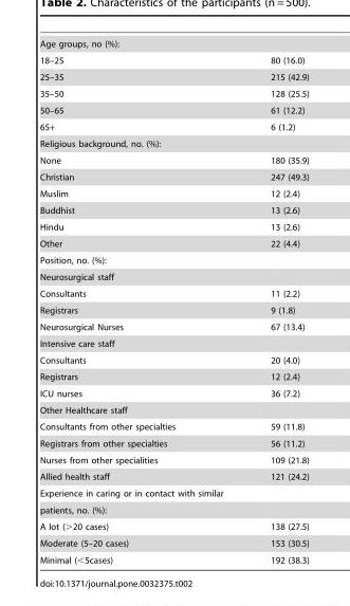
<table><tbody><tr><td colspan="2">Age groups, no (%):</td></tr><tr><td>18–25</td><td>80 (16.0)</td></tr><tr><td>25–35</td><td>215 (42.9)</td></tr><tr><td>35–50</td><td>128 (25.5)</td></tr><tr><td>50–65</td><td>61 (12.2)</td></tr><tr><td>65+</td><td>6 (1.2)</td></tr><tr><td colspan="2">Religious background, no. (%):</td></tr><tr><td>None</td><td>180 (35.9)</td></tr><tr><td>Christian</td><td>247 (49.3)</td></tr><tr><td>Muslim</td><td>12 (2.4)</td></tr><tr><td>Buddhist</td><td>13 (2.6)</td></tr><tr><td>Hindu</td><td>13 (2.6)</td></tr><tr><td>Other</td><td>22 (4.4)</td></tr><tr><td colspan="2">Position, no. (%):</td></tr><tr><td colspan="2">Neurosurgical staff</td></tr><tr><td>Consultants</td><td>11 (2.2)</td></tr><tr><td>Registrars</td><td>9 (1.8)</td></tr><tr><td>Neurosurgical Nurses</td><td>67 (13.4)</td></tr><tr><td colspan="2">Intensive care staff</td></tr><tr><td>Consultants</td><td>20 (4.0)</td></tr><tr><td>Registrars</td><td>12 (2.4)</td></tr><tr><td>ICU nurses</td><td>36 (7.2)</td></tr><tr><td colspan="2">Other Healthcare staff</td></tr><tr><td>Consultants from other specialties</td><td>59 (11.8)</td></tr><tr><td>Registrars from other specialties</td><td>56 (11.2)</td></tr><tr><td>Nurses from other specialities</td><td>109 (21.8)</td></tr><tr><td>Allied health staff</td><td>121 (24.2)</td></tr><tr><td colspan="2">Experience in caring or in contact with similar</td></tr><tr><td colspan="2">patients, no. (%):</td></tr><tr><td>A lot (&gt;20 cases)</td><td>138 (27.5)</td></tr><tr><td>Moderate (5–20 cases)</td><td>153 (30.5)</td></tr><tr><td>Minimal (&lt;5cases)</td><td>192 (38.3)</td></tr></tbody></table>